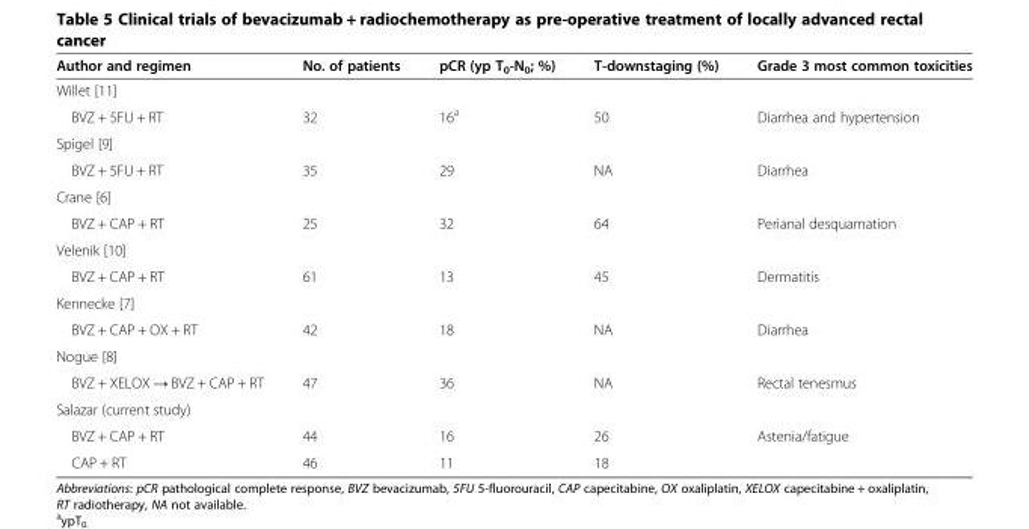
<table><thead><tr><td>Author and regimen</td><td>No. of patients</td><td>pCR (yp T<sub>0</sub>-N<sub>0</sub>; %)</td><td>T-downstaging (%)</td><td>Grade 3 most common toxicities</td></tr></thead><tbody><tr><td colspan="5">Willet [11]</td></tr><tr><td>BVZ + 5FU + RT</td><td>32</td><td>16<sup>a</sup></td><td>50</td><td>Diarrhea and hypertension</td></tr><tr><td colspan="5">Spigel [9]</td></tr><tr><td>BVZ + 5FU + RT</td><td>35</td><td>29</td><td>NA</td><td>Diarrhea</td></tr><tr><td colspan="5">Crane [6]</td></tr><tr><td>BVZ + CAP + RT</td><td>25</td><td>32</td><td>64</td><td>Perianal desquamation</td></tr><tr><td colspan="5">Velenik [10]</td></tr><tr><td>BVZ + CAP + RT</td><td>61</td><td>13</td><td>45</td><td>Dermatitis</td></tr><tr><td colspan="5">Kennecke [7]</td></tr><tr><td>BVZ + CAP + OX + RT</td><td>42</td><td>18</td><td>NA</td><td>Diarrhea</td></tr><tr><td colspan="5">Nogue [8]</td></tr><tr><td>BVZ + XELOX → BVZ + CAP + RT</td><td>47</td><td>36</td><td>NA</td><td>Rectal tenesmus</td></tr><tr><td colspan="5">Salazar (current study)</td></tr><tr><td>BVZ + CAP + RT</td><td>44</td><td>16</td><td>26</td><td rowspan="2">Astenia/fatigue</td></tr><tr><td>CAP + RT</td><td>46</td><td>11</td><td>18</td></tr></tbody></table>